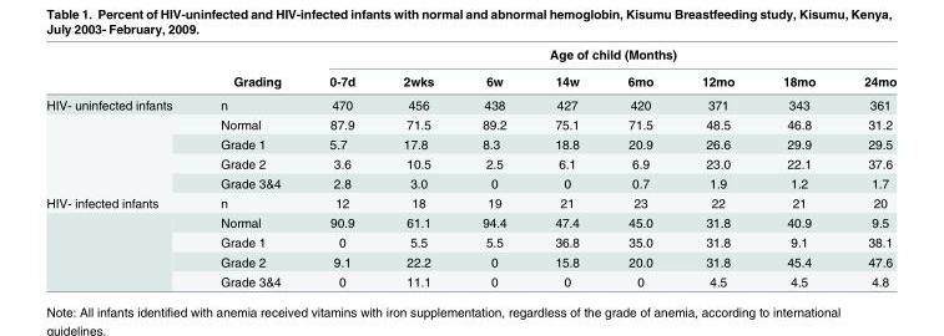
<table><thead><tr><td rowspan="2"></td><td rowspan="2">Grading</td><td colspan="8">Age of child (Months)</td></tr><tr><td>0-7d</td><td>2wks</td><td>6w</td><td>14w</td><td>6mo</td><td>12mo</td><td>18mo</td><td>24mo</td></tr></thead><tbody><tr><td rowspan="5">HIV- uninfected infants</td><td>n</td><td>470</td><td>456</td><td>438</td><td>427</td><td>420</td><td>371</td><td>343</td><td>361</td></tr><tr><td>Normal</td><td>87.9</td><td>71.5</td><td>89.2</td><td>75.1</td><td>71.5</td><td>48.5</td><td>46.8</td><td>31.2</td></tr><tr><td>Grade 1</td><td>5.7</td><td>17.8</td><td>8.3</td><td>18.8</td><td>20.9</td><td>26.6</td><td>29.9</td><td>29.5</td></tr><tr><td>Grade 2</td><td>3.6</td><td>10.5</td><td>2.5</td><td>6.1</td><td>6.9</td><td>23.0</td><td>22.1</td><td>37.6</td></tr><tr><td>Grade 3&amp;4</td><td>2.8</td><td>3.0</td><td>0</td><td>0</td><td>0.7</td><td>1.9</td><td>1.2</td><td>1.7</td></tr><tr><td rowspan="5">HIV- infected infants</td><td>n</td><td>12</td><td>18</td><td>19</td><td>21</td><td>23</td><td>22</td><td>21</td><td>20</td></tr><tr><td>Normal</td><td>90.9</td><td>61.1</td><td>94.4</td><td>47.4</td><td>45.0</td><td>31.8</td><td>40.9</td><td>9.5</td></tr><tr><td>Grade 1</td><td>0</td><td>5.5</td><td>5.5</td><td>36.8</td><td>35.0</td><td>31.8</td><td>9.1</td><td>38.1</td></tr><tr><td>Grade 2</td><td>9.1</td><td>22.2</td><td>0</td><td>15.8</td><td>20.0</td><td>31.8</td><td>45.4</td><td>47.6</td></tr><tr><td>Grade 3&amp;4</td><td>0</td><td>11.1</td><td>0</td><td>0</td><td>0</td><td>4.5</td><td>4.5</td><td>4.8</td></tr></tbody></table>